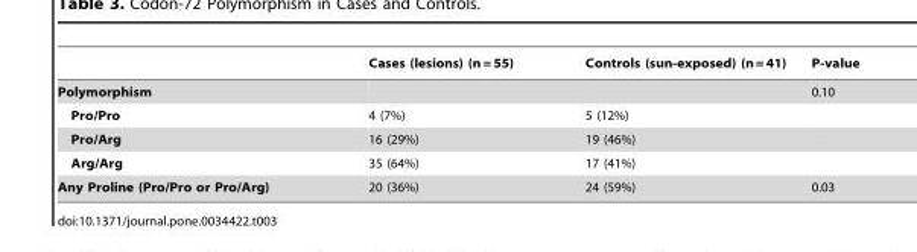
<table><thead><tr><td></td><td>Cases (lesions) (n = 55)</td><td>Controls (sun-exposed) (n = 41)</td><td>P-value</td></tr></thead><tbody><tr><td>Polymorphism</td><td></td><td></td><td>0.10</td></tr><tr><td>Pro/Pro</td><td>4 (7%)</td><td>5 (12%)</td><td></td></tr><tr><td>Pro/Arg</td><td>16 (29%)</td><td>19 (46%)</td><td></td></tr><tr><td>Arg/Arg</td><td>35 (64%)</td><td>17 (41%)</td><td></td></tr><tr><td>Any Proline (Pro/Pro or Pro/Arg)</td><td>20 (36%)</td><td>24 (59%)</td><td>0.03</td></tr></tbody></table>